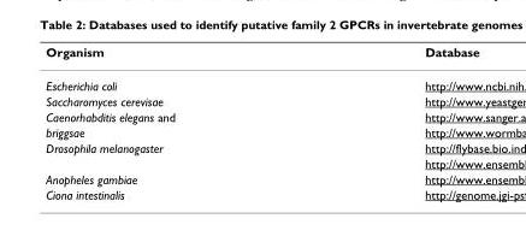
<table><thead><tr><td>Organism</td><td>Database</td></tr></thead><tbody><tr><td colspan="2">Escherichia coli</td></tr><tr><td colspan="2">Saccharomyces cerevisae</td></tr><tr><td colspan="2">Caenorhabditis elegans and</td></tr><tr><td colspan="2">briggsae</td></tr><tr><td colspan="2">Drosophila melanogaster</td></tr><tr><td colspan="2">Anopheles gambiae</td></tr><tr><td>Ciona intestinalis</td><td></td></tr></tbody></table>